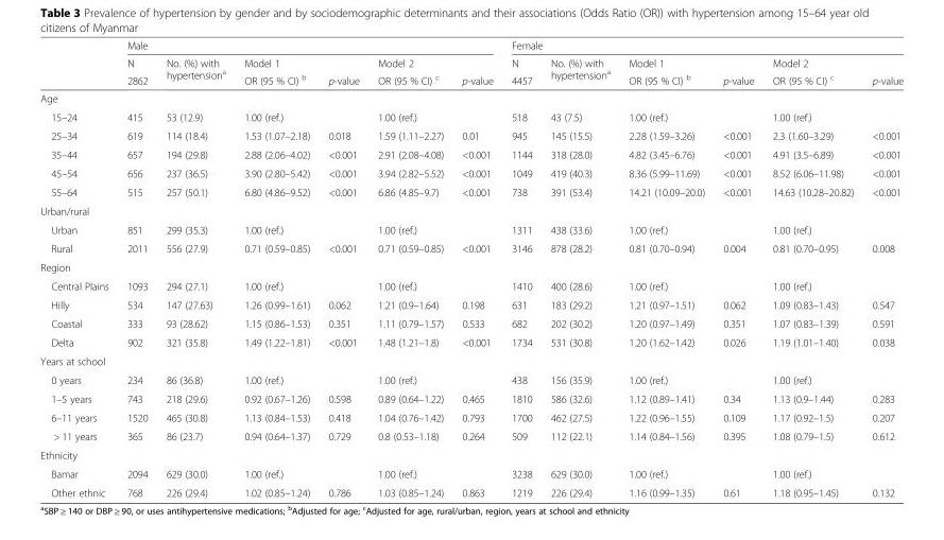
<table><thead><tr><td rowspan="3"></td><td colspan="6">Male</td><td colspan="6">Female</td></tr><tr><td rowspan="2">N 2862</td><td rowspan="2">No. (%) with hypertension<sup>a</sup></td><td rowspan="2">Model 1 OR (95 % CI) <sup>b</sup></td><td rowspan="2">p-value</td><td rowspan="2">Model 2 OR (95 % CI) <sup>c</sup></td><td rowspan="2">p-value</td><td rowspan="2">N 4457</td><td rowspan="2">No. (%) with hypertension<sup>a</sup></td><td rowspan="2">Model 1 OR (95 % CI) <sup>b</sup></td><td rowspan="2">p-value</td><td rowspan="2">Model 2 OR (95 % CI) <sup>c</sup></td><td rowspan="2">p-value</td></tr><tr></tr></thead><tbody><tr><td colspan="13">Age</td></tr><tr><td>15–24</td><td>415</td><td>53 (12.9)</td><td>1.00 (ref.)</td><td></td><td>1.00 (ref.)</td><td></td><td>518</td><td>43 (7.5)</td><td>1.00 (ref.)</td><td></td><td>1.00 (ref.)</td><td></td></tr><tr><td>25–34</td><td>619</td><td>114 (18.4)</td><td>1.53 (1.07–2.18)</td><td>0.018</td><td>1.59 (1.11–2.27)</td><td>0.01</td><td>945</td><td>145 (15.5)</td><td>2.28 (1.59–3.26)</td><td>&lt;0.001</td><td>2.3 (1.60–3.29)</td><td>&lt;0.001</td></tr><tr><td>35–44</td><td>657</td><td>194 (29.8)</td><td>2.88 (2.06–4.02)</td><td>&lt;0.001</td><td>2.91 (2.08–4.08)</td><td>&lt;0.001</td><td>1144</td><td>318 (28.0)</td><td>4.82 (3.45–6.76)</td><td>&lt;0.001</td><td>4.91 (3.5–6.89)</td><td>&lt;0.001</td></tr><tr><td>45–54</td><td>656</td><td>237 (36.5)</td><td>3.90 (2.80–5.42)</td><td>&lt;0.001</td><td>3.94 (2.82–5.52)</td><td>&lt;0.001</td><td>1049</td><td>419 (40.3)</td><td>8.36 (5.99–11.69)</td><td>&lt;0.001</td><td>8.52 (6.06–11.98)</td><td>&lt;0.001</td></tr><tr><td>55–64</td><td>515</td><td>257 (50.1)</td><td>6.80 (4.86–9.52)</td><td>&lt;0.001</td><td>6.86 (4.85–9.7)</td><td>&lt;0.001</td><td>738</td><td>391 (53.4)</td><td>14.21 (10.09–20.0)</td><td>&lt;0.001</td><td>14.63 (10.28–20.82)</td><td>&lt;0.001</td></tr><tr><td colspan="13">Urban/rural</td></tr><tr><td>Urban</td><td>851</td><td>299 (35.3)</td><td>1.00 (ref.)</td><td></td><td>1.00 (ref.)</td><td></td><td>1311</td><td>438 (33.6)</td><td>1.00 (ref.)</td><td></td><td>1.00 (ref.)</td><td></td></tr><tr><td>Rural</td><td>2011</td><td>556 (27.9)</td><td>0.71 (0.59–0.85)</td><td>&lt;0.001</td><td>0.71 (0.59–0.85)</td><td>&lt;0.001</td><td>3146</td><td>878 (28.2)</td><td>0.81 (0.70–0.94)</td><td>0.004</td><td>0.81 (0.70–0.95)</td><td>0.008</td></tr><tr><td colspan="13">Region</td></tr><tr><td>Central Plains</td><td>1093</td><td>294 (27.1)</td><td>1.00 (ref.)</td><td></td><td>1.00 (ref.)</td><td></td><td>1410</td><td>400 (28.6)</td><td>1.00 (ref.)</td><td></td><td>1.00 (ref.)</td><td></td></tr><tr><td>Hilly</td><td>534</td><td>147 (27.63)</td><td>1.26 (0.99–1.61)</td><td>0.062</td><td>1.21 (0.9–1.64)</td><td>0.198</td><td>631</td><td>183 (29.2)</td><td>1.21 (0.97–1.51)</td><td>0.062</td><td>1.09 (0.83–1.43)</td><td>0.547</td></tr><tr><td>Coastal</td><td>333</td><td>93 (28.62)</td><td>1.15 (0.86–1.53)</td><td>0.351</td><td>1.11 (0.79–1.57)</td><td>0.533</td><td>682</td><td>202 (30.2)</td><td>1.20 (0.97–1.49)</td><td>0.351</td><td>1.07 (0.83–1.39)</td><td>0.591</td></tr><tr><td>Delta</td><td>902</td><td>321 (35.8)</td><td>1.49 (1.22–1.81)</td><td>&lt;0.001</td><td>1.48 (1.21–1.8)</td><td>&lt;0.001</td><td>1734</td><td>531 (30.8)</td><td>1.20 (1.62–1.42)</td><td>0.026</td><td>1.19 (1.01–1.40)</td><td>0.038</td></tr><tr><td colspan="13">Years at school</td></tr><tr><td>0 years</td><td>234</td><td>86 (36.8)</td><td>1.00 (ref.)</td><td></td><td>1.00 (ref.)</td><td></td><td>438</td><td>156 (35.9)</td><td>1.00 (ref.)</td><td></td><td>1.00 (ref.)</td><td></td></tr><tr><td>1–5 years</td><td>743</td><td>218 (29.6)</td><td>0.92 (0.67–1.26)</td><td>0.598</td><td>0.89 (0.64–1.22)</td><td>0.465</td><td>1810</td><td>586 (32.6)</td><td>1.12 (0.89–1.41)</td><td>0.34</td><td>1.13 (0.9–1.44)</td><td>0.283</td></tr><tr><td>6–11 years</td><td>1520</td><td>465 (30.8)</td><td>1.13 (0.84–1.53)</td><td>0.418</td><td>1.04 (0.76–1.42)</td><td>0.793</td><td>1700</td><td>462 (27.5)</td><td>1.22 (0.96–1.55)</td><td>0.109</td><td>1.17 (0.92–1.5)</td><td>0.207</td></tr><tr><td>&gt; 11 years</td><td>365</td><td>86 (23.7)</td><td>0.94 (0.64–1.37)</td><td>0.729</td><td>0.8 (0.53–1.18)</td><td>0.264</td><td>509</td><td>112 (22.1)</td><td>1.14 (0.84–1.56)</td><td>0.395</td><td>1.08 (0.79–1.5)</td><td>0.612</td></tr><tr><td colspan="13">Ethnicity</td></tr><tr><td>Bamar</td><td>2094</td><td>629 (30.0)</td><td>1.00 (ref.)</td><td></td><td>1.00 (ref.)</td><td></td><td>3238</td><td>629 (30.0)</td><td>1.00 (ref.)</td><td></td><td>1.00 (ref.)</td><td></td></tr><tr><td>Other ethnic</td><td>768</td><td>226 (29.4)</td><td>1.02 (0.85–1.24)</td><td>0.786</td><td>1.03 (0.85–1.24)</td><td>0.863</td><td>1219</td><td>226 (29.4)</td><td>1.16 (0.99–1.35)</td><td>0.61</td><td>1.18 (0.95–1.45)</td><td>0.132</td></tr></tbody></table>